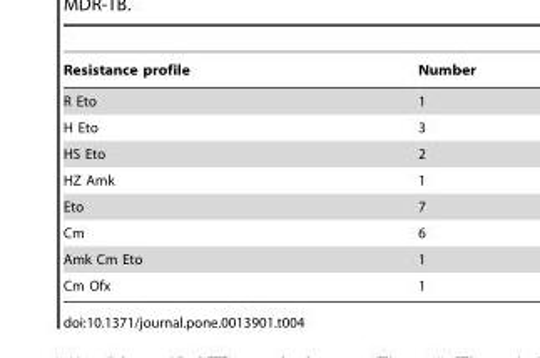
<table><thead><tr><td>Resistance profile</td><td>Number</td></tr></thead><tbody><tr><td>R Eto</td><td>1</td></tr><tr><td>H Eto</td><td>3</td></tr><tr><td>HS Eto</td><td>2</td></tr><tr><td>HZ Amk</td><td>1</td></tr><tr><td>Eto</td><td>7</td></tr><tr><td>Cm</td><td>6</td></tr><tr><td>Amk Cm Eto</td><td>1</td></tr><tr><td>Cm Ofx</td><td>1</td></tr></tbody></table>